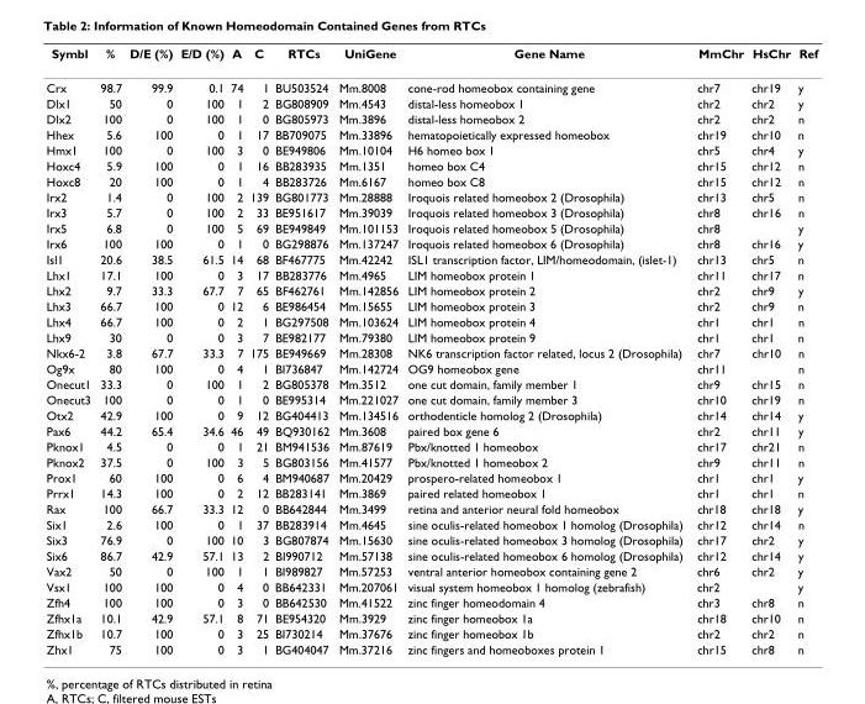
<table><thead><tr><td>Symbl</td><td>%</td><td>D/E (%)</td><td>E/D (%)</td><td>A</td><td>C</td><td>RTCs</td><td>UniGene</td><td>Gene Name</td><td>MmChr</td><td>HsChr</td><td>Ref</td></tr></thead><tbody><tr><td>Crx</td><td>98.7</td><td>99.9</td><td>0.1</td><td>74</td><td>1</td><td>BU503524</td><td>Mm.8008</td><td>cone-rod homeobox containing gene</td><td>chr7</td><td>chr19</td><td>y</td></tr><tr><td>Dlx1</td><td>50</td><td>0</td><td>100</td><td>1</td><td>2</td><td>BG808909</td><td>Mm.4543</td><td>distal-less homeobox 1</td><td>chr2</td><td>chr2</td><td>y</td></tr><tr><td>Dlx2</td><td>100</td><td>0</td><td>100</td><td>1</td><td>0</td><td>BG805973</td><td>Mm.3896</td><td>distal-less homeobox 2</td><td>chr2</td><td>chr2</td><td>n</td></tr><tr><td>Hhex</td><td>5.6</td><td>100</td><td>0</td><td>1</td><td>17</td><td>BB709075</td><td>Mm.33896</td><td>hematopoietically expressed homeobox</td><td>chr19</td><td>chr10</td><td>n</td></tr><tr><td>Hmx1</td><td>100</td><td>0</td><td>100</td><td>3</td><td>0</td><td>BE949806</td><td>Mm.10104</td><td>H6 homeo box 1</td><td>chr5</td><td>chr4</td><td>y</td></tr><tr><td>Hoxc4</td><td>5.9</td><td>100</td><td>0</td><td>1</td><td>16</td><td>BB283935</td><td>Mm.1351</td><td>homeo box C4</td><td>chr15</td><td>chr12</td><td>n</td></tr><tr><td>Hoxc8</td><td>20</td><td>100</td><td>0</td><td>1</td><td>4</td><td>BB283726</td><td>Mm.6167</td><td>homeo box C8</td><td>chr15</td><td>chr12</td><td>n</td></tr><tr><td>Irx2</td><td>1.4</td><td>0</td><td>100</td><td>2</td><td>139</td><td>BG801773</td><td>Mm.28888</td><td>Iroquois related homeobox 2 (Drosophila)</td><td>chr13</td><td>chr5</td><td>n</td></tr><tr><td>Irx3</td><td>5.7</td><td>0</td><td>100</td><td>2</td><td>33</td><td>BE951617</td><td>Mm.39039</td><td>Iroquois related homeobox 3 (Drosophila)</td><td>chr8</td><td>chr16</td><td>n</td></tr><tr><td>Irx5</td><td>6.8</td><td>0</td><td>100</td><td>5</td><td>69</td><td>BE949849</td><td>Mm.101153</td><td>Iroquois related homeobox 5 (Drosophila)</td><td>chr8</td><td></td><td>y</td></tr><tr><td>Irx6</td><td>100</td><td>100</td><td>0</td><td>1</td><td>0</td><td>BG298876</td><td>Mm.137247</td><td>Iroquois related homeobox 6 (Drosophila)</td><td>chr8</td><td>chr16</td><td>y</td></tr><tr><td>Isl1</td><td>20.6</td><td>38.5</td><td>61.5</td><td>14</td><td>68</td><td>BF467775</td><td>Mm.42242</td><td>ISL1 transcription factor, LIM/homeodomain, (islet-1)</td><td>chr13</td><td>chr5</td><td>n</td></tr><tr><td>Lhx1</td><td>17.1</td><td>100</td><td>0</td><td>3</td><td>17</td><td>BB283776</td><td>Mm.4965</td><td>LIM homeobox protein 1</td><td>chr11</td><td>chr17</td><td>n</td></tr><tr><td>Lhx2</td><td>9.7</td><td>33.3</td><td>67.7</td><td>7</td><td>65</td><td>BF462761</td><td>Mm.142856</td><td>LIM homeobox protein 2</td><td>chr2</td><td>chr9</td><td>y</td></tr><tr><td>Lhx3</td><td>66.7</td><td>100</td><td>0</td><td>12</td><td>6</td><td>BE986454</td><td>Mm.15655</td><td>LIM homeobox protein 3</td><td>chr2</td><td>chr9</td><td>n</td></tr><tr><td>Lhx4</td><td>66.7</td><td>100</td><td>0</td><td>2</td><td>1</td><td>BG297508</td><td>Mm.103624</td><td>LIM homeobox protein 4</td><td>chr1</td><td>chr1</td><td>n</td></tr><tr><td>Lhx9</td><td>30</td><td>0</td><td>0</td><td>3</td><td>7</td><td>BE982177</td><td>Mm.79380</td><td>LIM homeobox protein 9</td><td>chr1</td><td>chr1</td><td>n</td></tr><tr><td>Nkx6-2</td><td>3.8</td><td>67.7</td><td>33.3</td><td>7</td><td>175</td><td>BE949669</td><td>Mm.28308</td><td>NK6 transcription factor related, locus 2 (Drosophila)</td><td>chr7</td><td>chr10</td><td>n</td></tr><tr><td>Og9x</td><td>80</td><td>100</td><td>0</td><td>4</td><td>1</td><td>BI736847</td><td>Mm.142724</td><td>OG9 homeobox gene</td><td>chr11</td><td></td><td>n</td></tr><tr><td>Onecut1</td><td>33.3</td><td>0</td><td>100</td><td>1</td><td>2</td><td>BG805378</td><td>Mm.3512</td><td>one cut domain, family member 1</td><td>chr9</td><td>chr15</td><td>n</td></tr><tr><td>Onecut3</td><td>100</td><td>0</td><td>0</td><td>1</td><td>0</td><td>BE995314</td><td>Mm.221027</td><td>one cut domain, family member 3</td><td>chr10</td><td>chr19</td><td>n</td></tr><tr><td>Otx2</td><td>42.9</td><td>100</td><td>0</td><td>9</td><td>12</td><td>BG404413</td><td>Mm.134516</td><td>orthodenticle homolog 2 (Drosophila)</td><td>chr14</td><td>chr14</td><td>y</td></tr><tr><td>Pax6</td><td>44.2</td><td>65.4</td><td>34.6</td><td>46</td><td>49</td><td>BQ930162</td><td>Mm.3608</td><td>paired box gene 6</td><td>chr2</td><td>chr11</td><td>y</td></tr><tr><td>Pknox1</td><td>4.5</td><td>0</td><td>0</td><td>1</td><td>21</td><td>BM941536</td><td>Mm.87619</td><td>Pbx/knotted 1 homeobox</td><td>chr17</td><td>chr21</td><td>n</td></tr><tr><td>Pknox2</td><td>37.5</td><td>0</td><td>100</td><td>3</td><td>5</td><td>BG803156</td><td>Mm.41577</td><td>Pbx/knotted 1 homeobox 2</td><td>chr9</td><td>chr11</td><td>n</td></tr><tr><td>Prox1</td><td>60</td><td>100</td><td>0</td><td>6</td><td>4</td><td>BM940687</td><td>Mm.20429</td><td>prospero-related homeobox 1</td><td>chr1</td><td>chr1</td><td>y</td></tr><tr><td>Prrx1</td><td>14.3</td><td>100</td><td>0</td><td>2</td><td>12</td><td>BB283141</td><td>Mm.3869</td><td>paired related homeobox 1</td><td>chr1</td><td>chr1</td><td>n</td></tr><tr><td>Rax</td><td>100</td><td>66.7</td><td>33.3</td><td>12</td><td>0</td><td>BB642844</td><td>Mm.3499</td><td>retina and anterior neural fold homeobox</td><td>chr18</td><td>chr18</td><td>y</td></tr><tr><td>Six1</td><td>2.6</td><td>100</td><td>0</td><td>1</td><td>37</td><td>BB283914</td><td>Mm.4645</td><td>sine oculis-related homeobox 1 homolog (Drosophila)</td><td>chr12</td><td>chr14</td><td>n</td></tr><tr><td>Six3</td><td>76.9</td><td>0</td><td>100</td><td>10</td><td>3</td><td>BG807874</td><td>Mm.15630</td><td>sine oculis-related homeobox 3 homolog (Drosophila)</td><td>chr17</td><td>chr2</td><td>y</td></tr><tr><td>Six6</td><td>86.7</td><td>42.9</td><td>57.1</td><td>13</td><td>2</td><td>BI990712</td><td>Mm.57138</td><td>sine oculis-related homeobox 6 homolog (Drosophila)</td><td>chr12</td><td>chr14</td><td>y</td></tr><tr><td>Vax2</td><td>50</td><td>0</td><td>100</td><td>1</td><td>1</td><td>BI989827</td><td>Mm.57253</td><td>ventral anterior homeobox containing gene 2</td><td>chr6</td><td>chr2</td><td>y</td></tr><tr><td>Vsx1</td><td>100</td><td>100</td><td>0</td><td>4</td><td>0</td><td>BB642331</td><td>Mm.207061</td><td>visual system homeobox 1 homolog (zebrafish)</td><td>chr2</td><td></td><td>y</td></tr><tr><td>Zfh4</td><td>100</td><td>100</td><td>0</td><td>3</td><td>0</td><td>BB642530</td><td>Mm.41522</td><td>zinc finger homeodomain 4</td><td>chr3</td><td>chr8</td><td>n</td></tr><tr><td>Zfhx1a</td><td>10.1</td><td>42.9</td><td>57.1</td><td>8</td><td>71</td><td>BE954320</td><td>Mm.3929</td><td>zinc finger homeobox 1a</td><td>chr18</td><td>chr10</td><td>n</td></tr><tr><td>Zfhx1b</td><td>10.7</td><td>100</td><td>0</td><td>3</td><td>25</td><td>BI730214</td><td>Mm.37676</td><td>zinc finger homeobox 1b</td><td>chr2</td><td>chr2</td><td>n</td></tr><tr><td>Zhx1</td><td>75</td><td>100</td><td>0</td><td>3</td><td>1</td><td>BG404047</td><td>Mm.37216</td><td>zinc fingers and homeoboxes protein 1</td><td>chr15</td><td>chr8</td><td>n</td></tr></tbody></table>